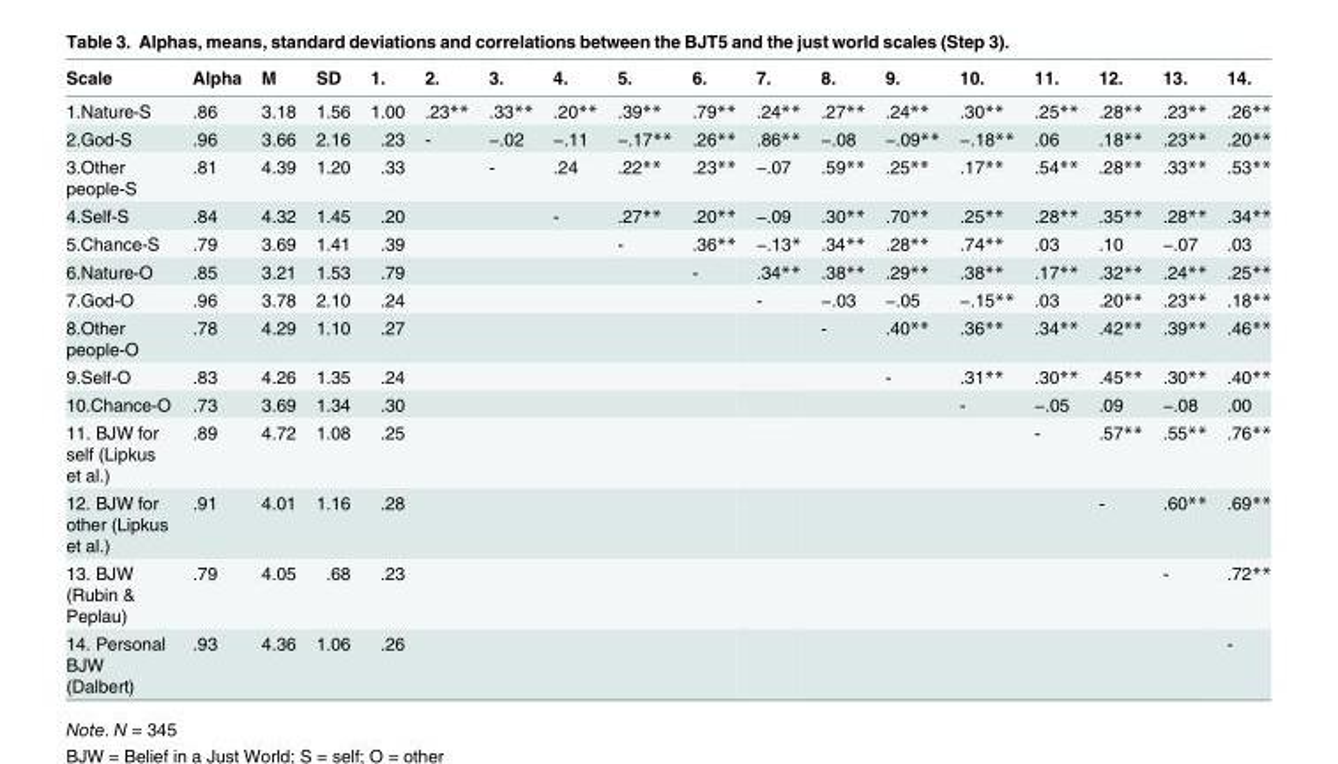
<table><thead><tr><td>Scale</td><td>Alpha</td><td>M</td><td>SD</td><td>1.</td><td>2.</td><td>3.</td><td>4.</td><td>5.</td><td>6.</td><td>7.</td><td>8.</td><td>9.</td><td>10.</td><td>11.</td><td>12.</td><td>13.</td><td>14.</td></tr></thead><tbody><tr><td>1.Nature-S</td><td>.86</td><td>3.18</td><td>1.56</td><td>1.00</td><td>.23**</td><td>.33**</td><td>.20**</td><td>.39**</td><td>.79**</td><td>.24**</td><td>.27**</td><td>.24**</td><td>.30**</td><td>.25**</td><td>.28**</td><td>.23**</td><td>.26**</td></tr><tr><td>2.God-S</td><td>.96</td><td>3.66</td><td>2.16</td><td>.23</td><td>-</td><td>−.02</td><td>−.11</td><td>−.17**</td><td>.26**</td><td>.86**</td><td>−.08</td><td>−.09**</td><td>−.18**</td><td>.06</td><td>.18**</td><td>.23**</td><td>.20**</td></tr><tr><td>3.Other people-S</td><td>.81</td><td>4.39</td><td>1.20</td><td>.33</td><td></td><td>-</td><td>.24</td><td>.22**</td><td>.23**</td><td>−.07</td><td>.59**</td><td>.25**</td><td>.17**</td><td>.54**</td><td>.28**</td><td>.33**</td><td>.53**</td></tr><tr><td>4.Self-S</td><td>.84</td><td>4.32</td><td>1.45</td><td>.20</td><td></td><td></td><td>-</td><td>.27**</td><td>.20**</td><td>−.09</td><td>.30**</td><td>.70**</td><td>.25**</td><td>.28**</td><td>.35**</td><td>.28**</td><td>.34**</td></tr><tr><td>5.Chance-S</td><td>.79</td><td>3.69</td><td>1.41</td><td>.39</td><td></td><td></td><td></td><td>-</td><td>.36**</td><td>−.13*</td><td>.34**</td><td>.28**</td><td>.74**</td><td>.03</td><td>.10</td><td>−.07</td><td>.03</td></tr><tr><td>6.Nature-O</td><td>.85</td><td>3.21</td><td>1.53</td><td>.79</td><td></td><td></td><td></td><td></td><td>-</td><td>.34**</td><td>.38**</td><td>.29**</td><td>.38**</td><td>.17**</td><td>.32**</td><td>.24**</td><td>.25**</td></tr><tr><td>7.God-O</td><td>.96</td><td>3.78</td><td>2.10</td><td>.24</td><td></td><td></td><td></td><td></td><td></td><td>-</td><td>−.03</td><td>−.05</td><td>−.15**</td><td>.03</td><td>.20**</td><td>.23**</td><td>.18**</td></tr><tr><td>8.Other people-O</td><td>.78</td><td>4.29</td><td>1.10</td><td>.27</td><td></td><td></td><td></td><td></td><td></td><td></td><td>-</td><td>.40**</td><td>.36**</td><td>.34**</td><td>.42**</td><td>.39**</td><td>.46**</td></tr><tr><td>9.Self-O</td><td>.83</td><td>4.26</td><td>1.35</td><td>.24</td><td></td><td></td><td></td><td></td><td></td><td></td><td></td><td>-</td><td>.31**</td><td>.30**</td><td>.45**</td><td>.30**</td><td>.40**</td></tr><tr><td>10.Chance-O</td><td>.73</td><td>3.69</td><td>1.34</td><td>.30</td><td></td><td></td><td></td><td></td><td></td><td></td><td></td><td></td><td>-</td><td>−.05</td><td>.09</td><td>−.08</td><td>.00</td></tr><tr><td>11. BJW for self (Lipkus et al.)</td><td>.89</td><td>4.72</td><td>1.08</td><td>.25</td><td></td><td></td><td></td><td></td><td></td><td></td><td></td><td></td><td></td><td>-</td><td>.57**</td><td>.55**</td><td>.76**</td></tr><tr><td>12. BJW for other (Lipkus et al.)</td><td>.91</td><td>4.01</td><td>1.16</td><td>.28</td><td></td><td></td><td></td><td></td><td></td><td></td><td></td><td></td><td></td><td></td><td>-</td><td>.60**</td><td>.69**</td></tr><tr><td>13. BJW (Rubin &amp; Peplau)</td><td>.79</td><td>4.05</td><td>.68</td><td>.23</td><td></td><td></td><td></td><td></td><td></td><td></td><td></td><td></td><td></td><td></td><td></td><td>-</td><td>.72**</td></tr><tr><td>14. Personal BJW (Dalbert)</td><td>.93</td><td>4.36</td><td>1.06</td><td>.26</td><td></td><td></td><td></td><td></td><td></td><td></td><td></td><td></td><td></td><td></td><td></td><td></td><td>-</td></tr></tbody></table>